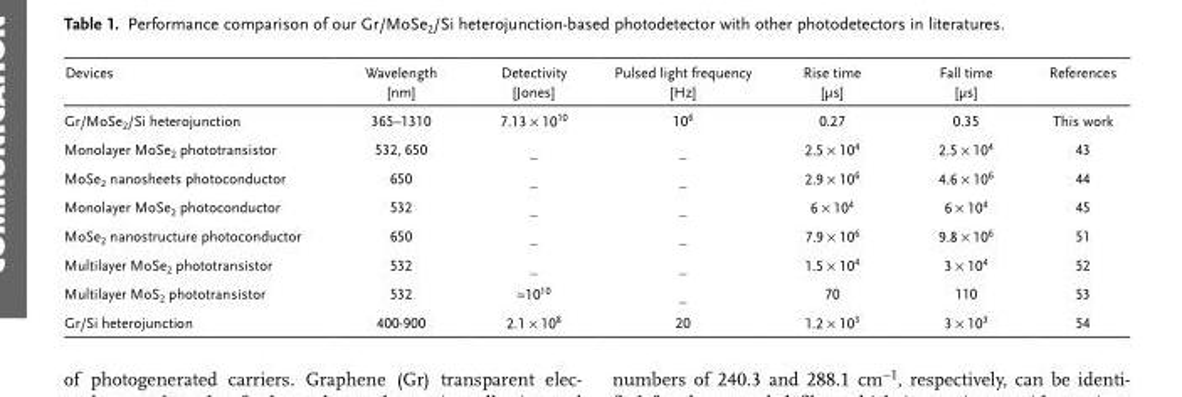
<table><thead><tr><td>Devices</td><td>Wavelength [nm]</td><td>Detectivity [Jones]</td><td>Pulsed light frequency [Hz]</td><td>Rise time [μs]</td><td>Fall time [μs]</td><td>References</td></tr></thead><tbody><tr><td>Gr/MoSe<sub>2</sub>/Si heterojunction</td><td>365–1310</td><td>7.13 × 10<sup>10</sup></td><td>10<sup>6</sup></td><td>0.27</td><td>0.35</td><td>This work</td></tr><tr><td>Monolayer MoSe<sub>2</sub> phototransistor</td><td>532, 650</td><td>_</td><td>_</td><td>2.5 × 10<sup>4</sup></td><td>2.5 × 10<sup>4</sup></td><td>43</td></tr><tr><td>MoSe<sub>2</sub> nanosheets photoconductor</td><td>650</td><td>_</td><td>_</td><td>2.9 × 10<sup>6</sup></td><td>4.6 × 10<sup>6</sup></td><td>44</td></tr><tr><td>Monolayer MoSe<sub>2</sub> photoconductor</td><td>532</td><td>_</td><td>_</td><td>6 × 10<sup>4</sup></td><td>6 × 10<sup>4</sup></td><td>45</td></tr><tr><td>MoSe<sub>2</sub> nanostructure photoconductor</td><td>650</td><td>_</td><td>_</td><td>7.9 × 10<sup>6</sup></td><td>9.8 × 10<sup>6</sup></td><td>51</td></tr><tr><td>Multilayer MoSe<sub>2</sub> phototransistor</td><td>532</td><td>_</td><td>_</td><td>1.5 × 10<sup>4</sup></td><td>3 × 10<sup>4</sup></td><td>52</td></tr><tr><td>Multilayer MoS<sub>2</sub> phototransistor</td><td>532</td><td>≈10<sup>10</sup></td><td>_</td><td>70</td><td>110</td><td>53</td></tr><tr><td>Gr/Si heterojunction</td><td>400-900</td><td>2.1 × 10<sup>8</sup></td><td>20</td><td>1.2 × 10<sup>3</sup></td><td>3 × 10<sup>3</sup></td><td>54</td></tr></tbody></table>